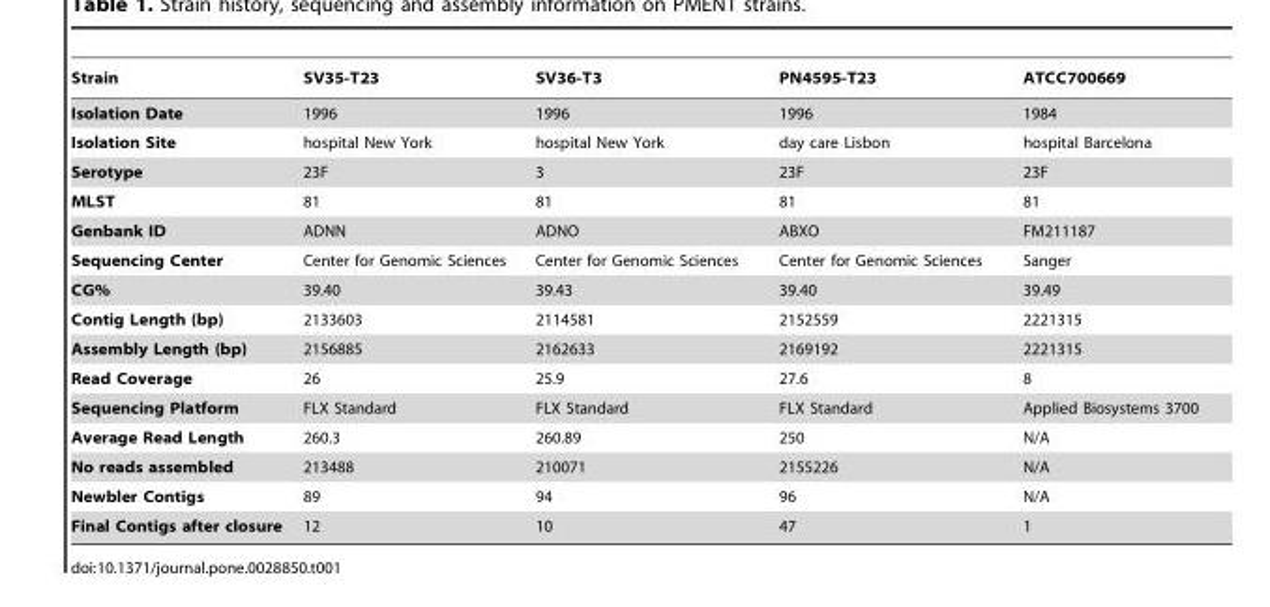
<table><thead><tr><td>Strain</td><td>SV35-T23</td><td>SV36-T3</td><td>PN4595-T23</td><td>ATCC700669</td></tr></thead><tbody><tr><td>Isolation Date</td><td>1996</td><td>1996</td><td>1996</td><td>1984</td></tr><tr><td>Isolation Site</td><td>hospital New York</td><td>hospital New York</td><td>day care Lisbon</td><td>hospital Barcelona</td></tr><tr><td>Serotype</td><td>23F</td><td>3</td><td>23F</td><td>23F</td></tr><tr><td>MLST</td><td>81</td><td>81</td><td>81</td><td>81</td></tr><tr><td>Genbank ID</td><td>ADNN</td><td>ADNO</td><td>ABXO</td><td>FM211187</td></tr><tr><td>Sequencing Center</td><td>Center for Genomic Sciences</td><td>Center for Genomic Sciences</td><td>Center for Genomic Sciences</td><td>Sanger</td></tr><tr><td>CG%</td><td>39.40</td><td>39.43</td><td>39.40</td><td>39.49</td></tr><tr><td>Contig Length (bp)</td><td>2133603</td><td>2114581</td><td>2152559</td><td>2221315</td></tr><tr><td>Assembly Length (bp)</td><td>2156885</td><td>2162633</td><td>2169192</td><td>2221315</td></tr><tr><td>Read Coverage</td><td>26</td><td>25.9</td><td>27.6</td><td>8</td></tr><tr><td>Sequencing Platform</td><td>FLX Standard</td><td>FLX Standard</td><td>FLX Standard</td><td>Applied Biosystems 3700</td></tr><tr><td>Average Read Length</td><td>260.3</td><td>260.89</td><td>250</td><td>N/A</td></tr><tr><td>No reads assembled</td><td>213488</td><td>210071</td><td>2155226</td><td>N/A</td></tr><tr><td>Newbler Contigs</td><td>89</td><td>94</td><td>96</td><td>N/A</td></tr><tr><td>Final Contigs after closure</td><td>12</td><td>10</td><td>47</td><td>1</td></tr></tbody></table>